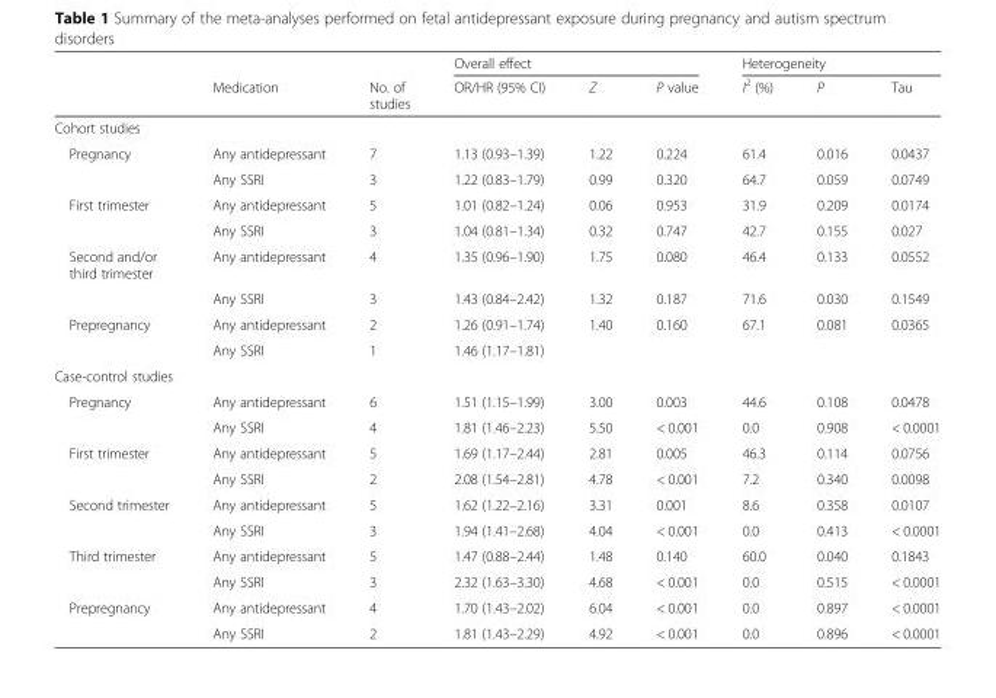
<table><thead><tr><td rowspan="2"></td><td rowspan="2">Medication</td><td rowspan="2">No. of studies</td><td colspan="3">Overall effect</td><td colspan="3">Heterogeneity</td></tr><tr><td>OR/HR (95% CI)</td><td>Z</td><td>P value</td><td>I<sup>2</sup> (%)</td><td>P</td><td>Tau</td></tr></thead><tbody><tr><td colspan="9">Cohort studies</td></tr><tr><td rowspan="2">Pregnancy</td><td>Any antidepressant</td><td>7</td><td>1.13 (0.93–1.39)</td><td>1.22</td><td>0.224</td><td>61.4</td><td>0.016</td><td>0.0437</td></tr><tr><td>Any SSRI</td><td>3</td><td>1.22 (0.83–1.79)</td><td>0.99</td><td>0.320</td><td>64.7</td><td>0.059</td><td>0.0749</td></tr><tr><td rowspan="2">First trimester</td><td>Any antidepressant</td><td>5</td><td>1.01 (0.82–1.24)</td><td>0.06</td><td>0.953</td><td>31.9</td><td>0.209</td><td>0.0174</td></tr><tr><td>Any SSRI</td><td>3</td><td>1.04 (0.81–1.34)</td><td>0.32</td><td>0.747</td><td>42.7</td><td>0.155</td><td>0.027</td></tr><tr><td rowspan="2">Second and/or third trimester</td><td>Any antidepressant</td><td>4</td><td>1.35 (0.96–1.90)</td><td>1.75</td><td>0.080</td><td>46.4</td><td>0.133</td><td>0.0552</td></tr><tr><td>Any SSRI</td><td>3</td><td>1.43 (0.84–2.42)</td><td>1.32</td><td>0.187</td><td>71.6</td><td>0.030</td><td>0.1549</td></tr><tr><td rowspan="2">Prepregnancy</td><td>Any antidepressant</td><td>2</td><td>1.26 (0.91–1.74)</td><td>1.40</td><td>0.160</td><td>67.1</td><td>0.081</td><td>0.0365</td></tr><tr><td>Any SSRI</td><td>1</td><td>1.46 (1.17–1.81)</td><td></td><td></td><td></td><td></td><td></td></tr><tr><td colspan="9">Case-control studies</td></tr><tr><td rowspan="2">Pregnancy</td><td>Any antidepressant</td><td>6</td><td>1.51 (1.15–1.99)</td><td>3.00</td><td>0.003</td><td>44.6</td><td>0.108</td><td>0.0478</td></tr><tr><td>Any SSRI</td><td>4</td><td>1.81 (1.46–2.23)</td><td>5.50</td><td>&lt; 0.001</td><td>0.0</td><td>0.908</td><td>&lt; 0.0001</td></tr><tr><td rowspan="2">First trimester</td><td>Any antidepressant</td><td>5</td><td>1.69 (1.17–2.44)</td><td>2.81</td><td>0.005</td><td>46.3</td><td>0.114</td><td>0.0756</td></tr><tr><td>Any SSRI</td><td>2</td><td>2.08 (1.54–2.81)</td><td>4.78</td><td>&lt; 0.001</td><td>7.2</td><td>0.340</td><td>0.0098</td></tr><tr><td rowspan="2">Second trimester</td><td>Any antidepressant</td><td>5</td><td>1.62 (1.22–2.16)</td><td>3.31</td><td>0.001</td><td>8.6</td><td>0.358</td><td>0.0107</td></tr><tr><td>Any SSRI</td><td>3</td><td>1.94 (1.41–2.68)</td><td>4.04</td><td>&lt; 0.001</td><td>0.0</td><td>0.413</td><td>&lt; 0.0001</td></tr><tr><td rowspan="2">Third trimester</td><td>Any antidepressant</td><td>5</td><td>1.47 (0.88–2.44)</td><td>1.48</td><td>0.140</td><td>60.0</td><td>0.040</td><td>0.1843</td></tr><tr><td>Any SSRI</td><td>3</td><td>2.32 (1.63–3.30)</td><td>4.68</td><td>&lt; 0.001</td><td>0.0</td><td>0.515</td><td>&lt; 0.0001</td></tr><tr><td rowspan="2">Prepregnancy</td><td>Any antidepressant</td><td>4</td><td>1.70 (1.43–2.02)</td><td>6.04</td><td>&lt; 0.001</td><td>0.0</td><td>0.897</td><td>&lt; 0.0001</td></tr><tr><td>Any SSRI</td><td>2</td><td>1.81 (1.43–2.29)</td><td>4.92</td><td>&lt; 0.001</td><td>0.0</td><td>0.896</td><td>&lt; 0.0001</td></tr></tbody></table>